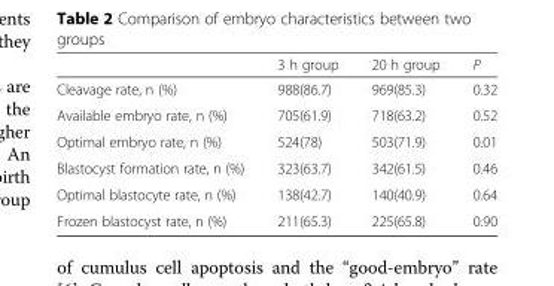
<table><thead><tr><td></td><td>3 h group</td><td>20 h group</td><td>P</td></tr></thead><tbody><tr><td>Cleavage rate, n (%)</td><td>988(86.7)</td><td>969(85.3)</td><td>0.32</td></tr><tr><td>Available embryo rate, n (%)</td><td>705(61.9)</td><td>718(63.2)</td><td>0.52</td></tr><tr><td>Optimal embryo rate, n (%)</td><td>524(78)</td><td>503(71.9)</td><td>0.01</td></tr><tr><td>Blastocyst formation rate, n (%)</td><td>323(63.7)</td><td>342(61.5)</td><td>0.46</td></tr><tr><td>Optimal blastocyte rate, n (%)</td><td>138(42.7)</td><td>140(40.9)</td><td>0.64</td></tr><tr><td>Frozen blastocyst rate, n (%)</td><td>211(65.3)</td><td>225(65.8)</td><td>0.90</td></tr></tbody></table>